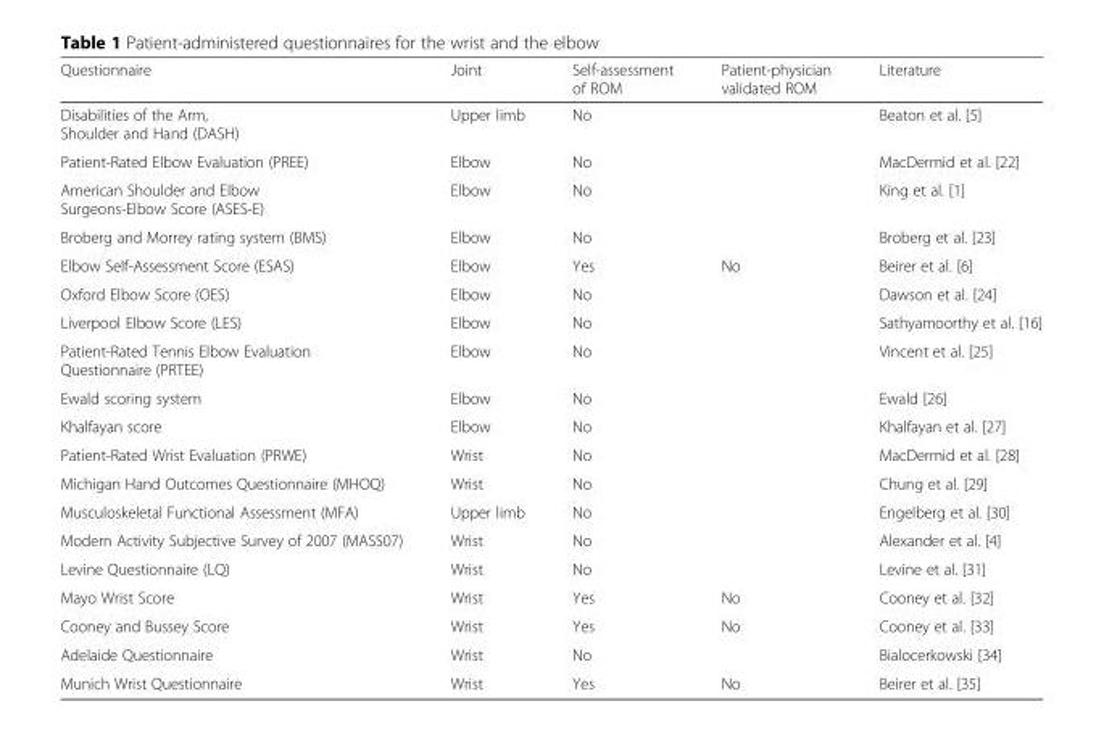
<table><thead><tr><td>Questionnaire</td><td>Joint</td><td>Self-assessment of ROM</td><td>Patient-physician validated ROM</td><td>Literature</td></tr></thead><tbody><tr><td>Disabilities of the Arm, Shoulder and Hand (DASH)</td><td>Upper limb</td><td>No</td><td></td><td>Beaton et al. [5]</td></tr><tr><td>Patient-Rated Elbow Evaluation (PREE)</td><td>Elbow</td><td>No</td><td></td><td>MacDermid et al. [22]</td></tr><tr><td>American Shoulder and Elbow Surgeons-Elbow Score (ASES-E)</td><td>Elbow</td><td>No</td><td></td><td>King et al. [1]</td></tr><tr><td>Broberg and Morrey rating system (BMS)</td><td>Elbow</td><td>No</td><td></td><td>Broberg et al. [23]</td></tr><tr><td>Elbow Self-Assessment Score (ESAS)</td><td>Elbow</td><td>Yes</td><td>No</td><td>Beirer et al. [6]</td></tr><tr><td>Oxford Elbow Score (OES)</td><td>Elbow</td><td>No</td><td></td><td>Dawson et al. [24]</td></tr><tr><td>Liverpool Elbow Score (LES)</td><td>Elbow</td><td>No</td><td></td><td>Sathyamoorthy et al. [16]</td></tr><tr><td>Patient-Rated Tennis Elbow Evaluation Questionnaire (PRTEE)</td><td>Elbow</td><td>No</td><td></td><td>Vincent et al. [25]</td></tr><tr><td>Ewald scoring system</td><td>Elbow</td><td>No</td><td></td><td>Ewald [26]</td></tr><tr><td>Khalfayan score</td><td>Elbow</td><td>No</td><td></td><td>Khalfayan et al. [27]</td></tr><tr><td>Patient-Rated Wrist Evaluation (PRWE)</td><td>Wrist</td><td>No</td><td></td><td>MacDermid et al. [28]</td></tr><tr><td>Michigan Hand Outcomes Questionnaire (MHOQ)</td><td>Wrist</td><td>No</td><td></td><td>Chung et al. [29]</td></tr><tr><td>Musculoskeletal Functional Assessment (MFA)</td><td>Upper limb</td><td>No</td><td></td><td>Engelberg et al. [30]</td></tr><tr><td>Modern Activity Subjective Survey of 2007 (MASS07)</td><td>Wrist</td><td>No</td><td></td><td>Alexander et al. [4]</td></tr><tr><td>Levine Questionnaire (LQ)</td><td>Wrist</td><td>No</td><td></td><td>Levine et al. [31]</td></tr><tr><td>Mayo Wrist Score</td><td>Wrist</td><td>Yes</td><td>No</td><td>Cooney et al. [32]</td></tr><tr><td>Cooney and Bussey Score</td><td>Wrist</td><td>Yes</td><td>No</td><td>Cooney et al. [33]</td></tr><tr><td>Adelaide Questionnaire</td><td>Wrist</td><td>No</td><td></td><td>Bialocerkowski [34]</td></tr><tr><td>Munich Wrist Questionnaire</td><td>Wrist</td><td>Yes</td><td>No</td><td>Beirer et al. [35]</td></tr></tbody></table>